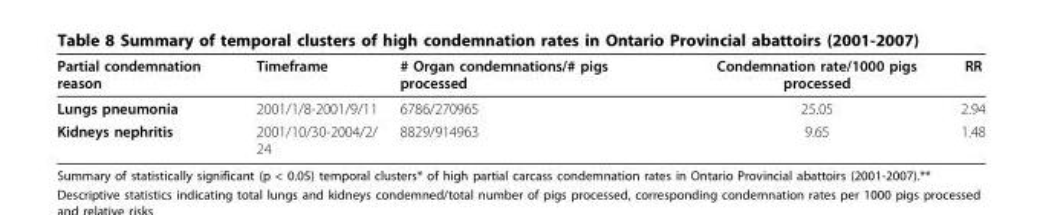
<table><thead><tr><td>Partial condemnation reason</td><td>Timeframe</td><td># Organ condemnations/# pigs processed</td><td>Condemnation rate/1000 pigs processed</td><td>RR</td></tr></thead><tbody><tr><td>Lungs pneumonia</td><td>2001/1/8-2001/9/11</td><td>6786/270965</td><td>25.05</td><td>2.94</td></tr><tr><td>Kidneys nephritis</td><td>2001/10/30-2004/2/ 24</td><td>8829/914963</td><td>9.65</td><td>1.48</td></tr></tbody></table>